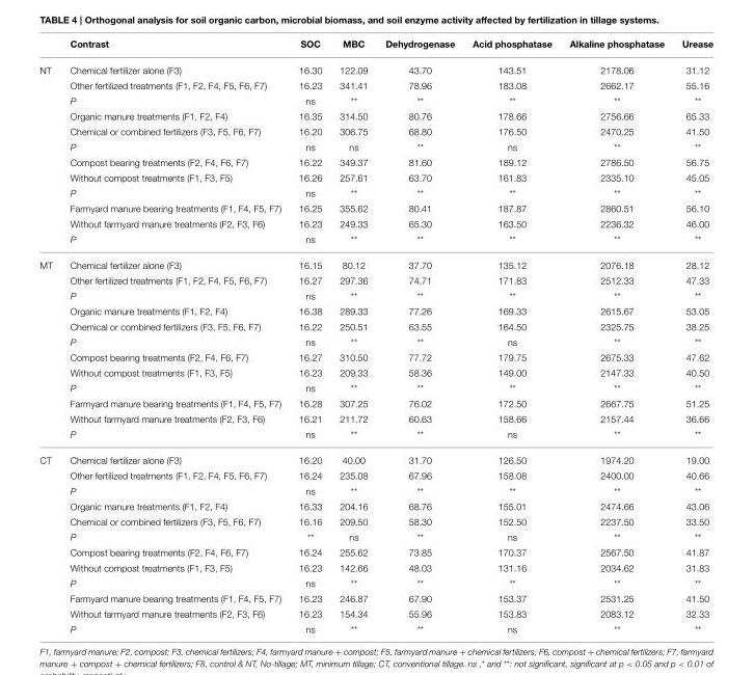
<table><thead><tr><td></td><td>Contrast</td><td>SOC</td><td>MBC</td><td>Dehydrogenase</td><td>Acid phosphatase</td><td>Alkaline phosphatase</td><td>Urease</td></tr></thead><tbody><tr><td rowspan="12">NT</td><td>Chemical fertilizer alone (F3)</td><td>16.30</td><td>122.09</td><td>43.70</td><td>143.51</td><td>2178.06</td><td>31.12</td></tr><tr><td>Other fertilized treatments (F1, F2, F4, F5, F6, F7)</td><td>16.23</td><td>341.41</td><td>78.96</td><td>183.08</td><td>2662.17</td><td>55.16</td></tr><tr><td>P</td><td>ns</td><td>**</td><td>**</td><td>**</td><td>**</td><td>**</td></tr><tr><td>Organic manure treatments (F1, F2, F4)</td><td>16.35</td><td>314.50</td><td>80.76</td><td>178.66</td><td>2756.66</td><td>65.33</td></tr><tr><td>Chemical or combined fertilizers (F3, F5, F6, F7)</td><td>16.20</td><td>306.75</td><td>68.80</td><td>176.50</td><td>2470.25</td><td>41.50</td></tr><tr><td>P</td><td>ns</td><td>ns</td><td>**</td><td>ns</td><td>**</td><td>**</td></tr><tr><td>Compost bearing treatments (F2, F4, F6, F7)</td><td>16.22</td><td>349.37</td><td>81.60</td><td>189.12</td><td>2786.50</td><td>56.75</td></tr><tr><td>Without compost treatments (F1, F3, F5)</td><td>16.26</td><td>257.61</td><td>63.70</td><td>161.83</td><td>2335.10</td><td>45.05</td></tr><tr><td>P</td><td>ns</td><td>**</td><td>**</td><td>**</td><td>**</td><td>**</td></tr><tr><td>Farmyard manure bearing treatments (F1, F4, F5, F7)</td><td>16.25</td><td>355.62</td><td>80.41</td><td>187.87</td><td>2860.51</td><td>56.10</td></tr><tr><td>Without farmyard manure treatments (F2, F3, F6)</td><td>16.23</td><td>249.33</td><td>65.30</td><td>163.50</td><td>2236.32</td><td>46.00</td></tr><tr><td>P</td><td>ns</td><td>**</td><td>**</td><td>**</td><td>**</td><td>**</td></tr><tr><td rowspan="12">MT</td><td>Chemical fertilizer alone (F3)</td><td>16.15</td><td>80.12</td><td>37.70</td><td>135.12</td><td>2076.18</td><td>28.12</td></tr><tr><td>Other fertilized treatments (F1, F2, F4, F5, F6, F7)</td><td>16.27</td><td>297.36</td><td>74.71</td><td>171.83</td><td>2512.33</td><td>47.33</td></tr><tr><td>P</td><td>ns</td><td>**</td><td>**</td><td>**</td><td>**</td><td>**</td></tr><tr><td>Organic manure treatments (F1, F2, F4)</td><td>16.38</td><td>289.33</td><td>77.26</td><td>169.33</td><td>2615.67</td><td>53.05</td></tr><tr><td>Chemical or combined fertilizers (F3, F5, F6, F7)</td><td>16.22</td><td>250.51</td><td>63.55</td><td>164.50</td><td>2325.75</td><td>38.25</td></tr><tr><td>P</td><td>ns</td><td>**</td><td>**</td><td>ns</td><td>**</td><td>**</td></tr><tr><td>Compost bearing treatments (F2, F4, F6, F7)</td><td>16.27</td><td>310.50</td><td>77.72</td><td>179.75</td><td>2675.33</td><td>47.62</td></tr><tr><td>Without compost treatments (F1, F3, F5)</td><td>16.23</td><td>209.33</td><td>58.36</td><td>149.00</td><td>2147.33</td><td>40.50</td></tr><tr><td>P</td><td>ns</td><td>**</td><td>**</td><td>**</td><td>**</td><td>**</td></tr><tr><td>Farmyard manure bearing treatments (F1, F4, F5, F7)</td><td>16.28</td><td>307.25</td><td>76.02</td><td>172.50</td><td>2667.75</td><td>51.25</td></tr><tr><td>Without farmyard manure treatments (F2, F3, F6)</td><td>16.21</td><td>211.72</td><td>60.63</td><td>158.66</td><td>2157.44</td><td>36.66</td></tr><tr><td>P</td><td>ns</td><td>**</td><td>**</td><td>ns</td><td>**</td><td>**</td></tr><tr><td rowspan="12">CT</td><td>Chemical fertilizer alone (F3)</td><td>16.20</td><td>40.00</td><td>31.70</td><td>126.50</td><td>1974.20</td><td>19.00</td></tr><tr><td>Other fertilized treatments (F1, F2, F4, F5, F6, F7)</td><td>16.24</td><td>235.08</td><td>67.96</td><td>158.08</td><td>2400.00</td><td>40.66</td></tr><tr><td>P</td><td>ns</td><td>**</td><td>**</td><td>**</td><td>**</td><td>**</td></tr><tr><td>Organic manure treatments (F1, F2, F4)</td><td>16.33</td><td>204.16</td><td>68.76</td><td>155.01</td><td>2474.66</td><td>43.06</td></tr><tr><td>Chemical or combined fertilizers (F3, F5, F6, F7)</td><td>16.16</td><td>209.50</td><td>58.30</td><td>152.50</td><td>2237.50</td><td>33.50</td></tr><tr><td>P</td><td>**</td><td>ns</td><td>**</td><td>ns</td><td>**</td><td>**</td></tr><tr><td>Compost bearing treatments (F2, F4, F6, F7)</td><td>16.24</td><td>255.62</td><td>73.85</td><td>170.37</td><td>2567.50</td><td>41.87</td></tr><tr><td>Without compost treatments (F1, F3, F5)</td><td>16.23</td><td>142.66</td><td>48.03</td><td>131.16</td><td>2034.62</td><td>31.83</td></tr><tr><td>P</td><td>ns</td><td>**</td><td>**</td><td>**</td><td>**</td><td>**</td></tr><tr><td>Farmyard manure bearing treatments (F1, F4, F5, F7)</td><td>16.23</td><td>246.87</td><td>67.90</td><td>153.37</td><td>2531.25</td><td>41.50</td></tr><tr><td>Without farmyard manure treatments (F2, F3, F6)</td><td>16.23</td><td>154.34</td><td>55.96</td><td>153.83</td><td>2083.12</td><td>32.33</td></tr><tr><td>P</td><td>ns</td><td>**</td><td>**</td><td>ns</td><td>**</td><td>**</td></tr></tbody></table>